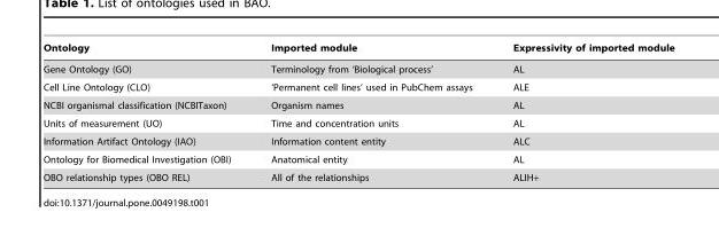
<table><thead><tr><td>Ontology</td><td>Imported module</td><td>Expressivity of imported module</td></tr></thead><tbody><tr><td>Gene Ontology (GO)</td><td>Terminology from ‘Biological process’</td><td>AL</td></tr><tr><td>Cell Line Ontology (CLO)</td><td>‘Permanent cell lines’ used in PubChem assays</td><td>ALE</td></tr><tr><td>NCBI organismal classification (NCBITaxon)</td><td>Organism names</td><td>AL</td></tr><tr><td>Units of measurement (UO)</td><td>Time and concentration units</td><td>AL</td></tr><tr><td>Information Artifact Ontology (IAO)</td><td>Information content entity</td><td>ALC</td></tr><tr><td>Ontology for Biomedical Investigation (OBI)</td><td>Anatomical entity</td><td>AL</td></tr><tr><td>OBO relationship types (OBO REL)</td><td>All of the relationships</td><td>ALIH+</td></tr></tbody></table>